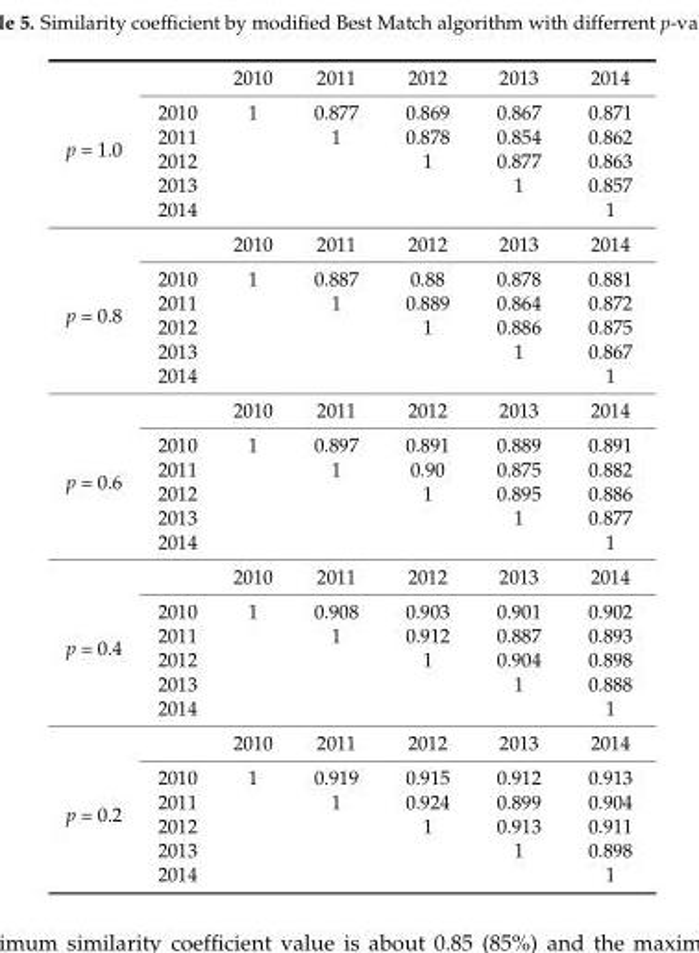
<table><tbody><tr><td rowspan="6">p = 1.0</td><td></td><td>2010</td><td>2011</td><td>2012</td><td>2013</td><td>2014</td></tr><tr><td>2010</td><td>1</td><td>0.877</td><td>0.869</td><td>0.867</td><td>0.871</td></tr><tr><td>2011</td><td></td><td>1</td><td>0.878</td><td>0.854</td><td>0.862</td></tr><tr><td>2012</td><td></td><td></td><td>1</td><td>0.877</td><td>0.863</td></tr><tr><td>2013</td><td></td><td></td><td></td><td>1</td><td>0.857</td></tr><tr><td>2014</td><td></td><td></td><td></td><td></td><td>1</td></tr><tr><td rowspan="6">p = 0.8</td><td></td><td>2010</td><td>2011</td><td>2012</td><td>2013</td><td>2014</td></tr><tr><td>2010</td><td>1</td><td>0.887</td><td>0.88</td><td>0.878</td><td>0.881</td></tr><tr><td>2011</td><td></td><td>1</td><td>0.889</td><td>0.864</td><td>0.872</td></tr><tr><td>2012</td><td></td><td></td><td>1</td><td>0.886</td><td>0.875</td></tr><tr><td>2013</td><td></td><td></td><td></td><td>1</td><td>0.867</td></tr><tr><td>2014</td><td></td><td></td><td></td><td></td><td>1</td></tr><tr><td rowspan="6">p = 0.6</td><td></td><td>2010</td><td>2011</td><td>2012</td><td>2013</td><td>2014</td></tr><tr><td>2010</td><td>1</td><td>0.897</td><td>0.891</td><td>0.889</td><td>0.891</td></tr><tr><td>2011</td><td></td><td>1</td><td>0.90</td><td>0.875</td><td>0.882</td></tr><tr><td>2012</td><td></td><td></td><td>1</td><td>0.895</td><td>0.886</td></tr><tr><td>2013</td><td></td><td></td><td></td><td>1</td><td>0.877</td></tr><tr><td>2014</td><td></td><td></td><td></td><td></td><td>1</td></tr><tr><td rowspan="6">p = 0.4</td><td></td><td>2010</td><td>2011</td><td>2012</td><td>2013</td><td>2014</td></tr><tr><td>2010</td><td>1</td><td>0.908</td><td>0.903</td><td>0.901</td><td>0.902</td></tr><tr><td>2011</td><td></td><td>1</td><td>0.912</td><td>0.887</td><td>0.893</td></tr><tr><td>2012</td><td></td><td></td><td>1</td><td>0.904</td><td>0.898</td></tr><tr><td>2013</td><td></td><td></td><td></td><td>1</td><td>0.888</td></tr><tr><td>2014</td><td></td><td></td><td></td><td></td><td>1</td></tr><tr><td rowspan="6">p = 0.2</td><td></td><td>2010</td><td>2011</td><td>2012</td><td>2013</td><td>2014</td></tr><tr><td>2010</td><td>1</td><td>0.919</td><td>0.915</td><td>0.912</td><td>0.913</td></tr><tr><td>2011</td><td></td><td>1</td><td>0.924</td><td>0.899</td><td>0.904</td></tr><tr><td>2012</td><td></td><td></td><td>1</td><td>0.913</td><td>0.911</td></tr><tr><td>2013</td><td></td><td></td><td></td><td>1</td><td>0.898</td></tr><tr><td>2014</td><td></td><td></td><td></td><td></td><td>1</td></tr></tbody></table>